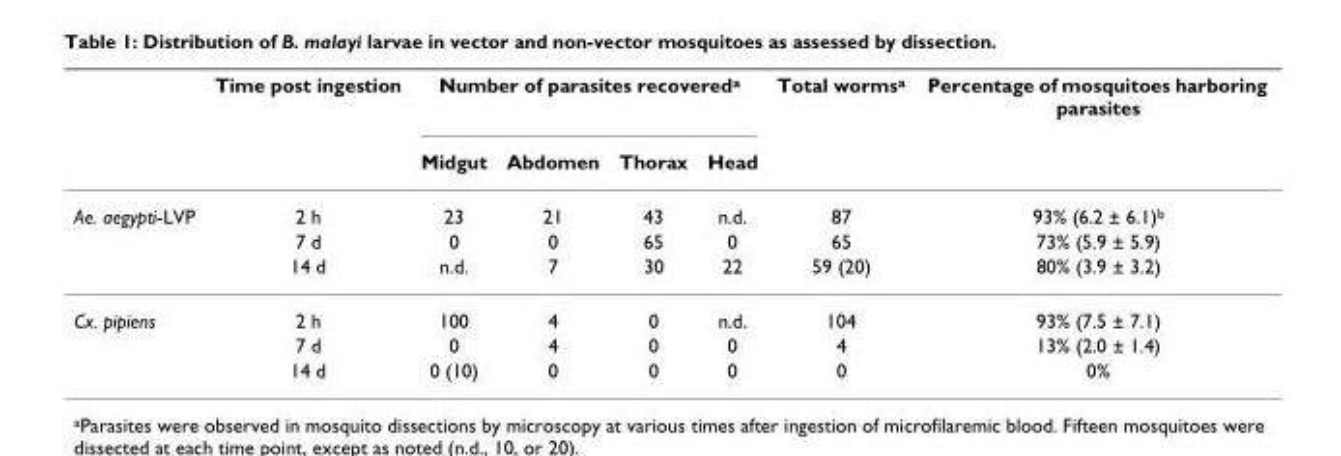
<table><thead><tr><td rowspan="2"></td><td rowspan="2">Time post ingestion</td><td colspan="4">Number of parasites recovered<sup>a</sup></td><td rowspan="2">Total worms<sup>a</sup></td><td rowspan="2">Percentage of mosquitoes harboring parasites</td></tr><tr><td>Midgut</td><td>Abdomen</td><td>Thorax</td><td>Head</td></tr></thead><tbody><tr><td rowspan="3">Ae. aegypti-LVP</td><td>2 h</td><td>23</td><td>21</td><td>43</td><td>n.d.</td><td>87</td><td>93% (6.2 ± 6.1)<sup>b</sup></td></tr><tr><td>7 d</td><td>0</td><td>0</td><td>65</td><td>0</td><td>65</td><td>73% (5.9 ± 5.9)</td></tr><tr><td>14 d</td><td>n.d.</td><td>7</td><td>30</td><td>22</td><td>59 (20)</td><td>80% (3.9 ± 3.2)</td></tr><tr><td rowspan="3">Cx. pipiens</td><td>2 h</td><td>100</td><td>4</td><td>0</td><td>n.d.</td><td>104</td><td>93% (7.5 ± 7.1)</td></tr><tr><td>7 d</td><td>0</td><td>4</td><td>0</td><td>0</td><td>4</td><td>13% (2.0 ± 1.4)</td></tr><tr><td>14 d</td><td>0 (10)</td><td>0</td><td>0</td><td>0</td><td>0</td><td>0%</td></tr></tbody></table>